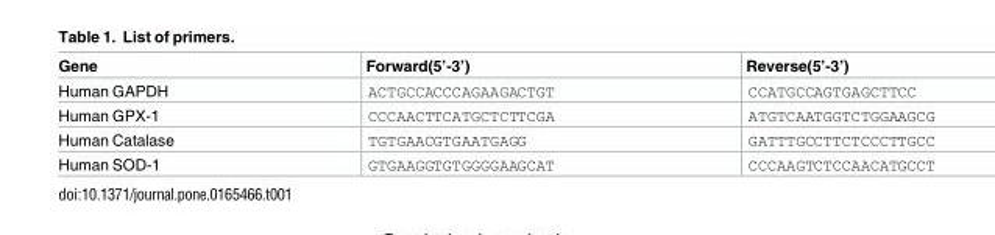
<table><thead><tr><td>Gene</td><td>Forward(5’-3’)</td><td>Reverse(5’-3’)</td></tr></thead><tbody><tr><td>Human GAPDH</td><td>ACTGCCACCCAGAAGACTGT</td><td>CCATGCCAGTGAGCTTCC</td></tr><tr><td>Human GPX-1</td><td>CCCAACTTCATGCTCTTCGA</td><td>ATGTCAATGGTCTGGAAGCG</td></tr><tr><td>Human Catalase</td><td>TGTGAACGTGAATGAGG</td><td>GATTTGCCTTCTCCCTTGCC</td></tr><tr><td>Human SOD-1</td><td>GTGAAGGTGTGGGGAAGCAT</td><td>CCCAAGTCTCCAACATGCCT</td></tr></tbody></table>